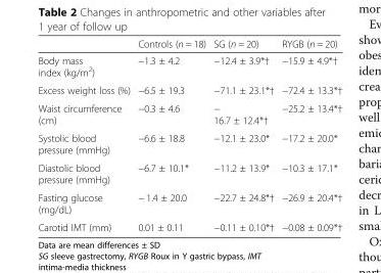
<table><thead><tr><td></td><td>Controls (n = 18)</td><td>SG (n = 20)</td><td>RYGB (n = 20)</td></tr></thead><tbody><tr><td>Body mass index (kg/m<sup>2</sup>)</td><td>−1.3 ± 4.2</td><td>−12.4 ± 3.9*†</td><td>−15.9 ± 4.9*†</td></tr><tr><td>Excess weight loss (%)</td><td>−6.5 ± 19.3</td><td>−71.1 ± 23.1*†</td><td>−72.4 ± 13.3*†</td></tr><tr><td>Waist circumference (cm)</td><td>−0.3 ± 4.6</td><td>− 16.7 ± 12.4*†</td><td>−25.2 ± 13.4*†</td></tr><tr><td>Systolic blood pressure (mmHg)</td><td>−6.6 ± 18.8</td><td>−12.1 ± 23.0*</td><td>−17.2 ± 20.0*</td></tr><tr><td>Diastolic blood pressure (mmHg)</td><td>−6.7 ± 10.1*</td><td>−11.2 ± 13.9*</td><td>−10.3 ± 17.1*</td></tr><tr><td>Fasting glucose (mg/dL)</td><td>− 1.4 ± 20.0</td><td>−22.7 ± 24.8*†</td><td>−26.9 ± 20.4*†</td></tr><tr><td>Carotid IMT (mm)</td><td>0.01 ± 0.11</td><td>−0.11 ± 0.10*†</td><td>−0.08 ± 0.09*†</td></tr></tbody></table>